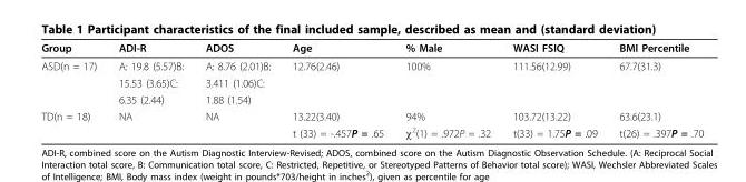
<table><thead><tr><td>Group</td><td>ADI-R</td><td>ADOS</td><td>Age</td><td>% Male</td><td>WASI FSIQ</td><td>BMI Percentile</td></tr></thead><tbody><tr><td rowspan="3">ASD(n = 17)</td><td>A: 19.8 (5.57)B:</td><td>A: 8.76 (2.01)B:</td><td>12.76(2.46)</td><td>100%</td><td>111.56(12.99)</td><td>67.7(31.3)</td></tr><tr><td>15.53 (3.65)C:</td><td>3.411 (1.06)C:</td><td></td><td></td><td></td><td></td></tr><tr><td>6.35 (2.44)</td><td>1.88 (1.54)</td><td></td><td></td><td></td><td></td></tr><tr><td rowspan="2">TD(n = 18)</td><td>NA</td><td>NA</td><td>13.22(3.40)</td><td>94%</td><td>103.72(13.22)</td><td>63.6(23.1)</td></tr><tr><td></td><td></td><td>t (33) = -.457P = .65</td><td>χ<sup>2</sup>(1) = .972P = .32</td><td>t(33) = 1.75P = .09</td><td>t(26) = .397P = .70</td></tr></tbody></table>